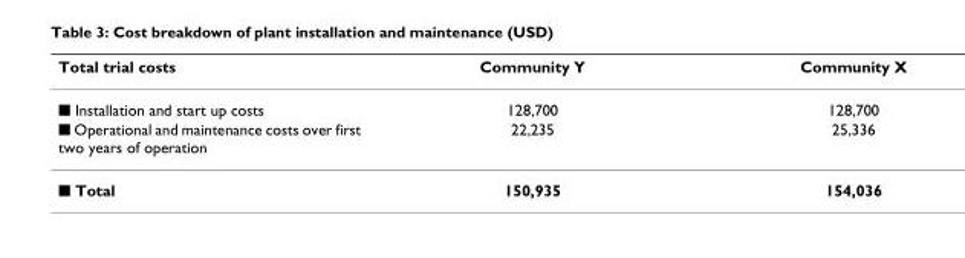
<table><thead><tr><td>Total trial costs</td><td>Community Y</td><td>Community X</td></tr></thead><tbody><tr><td>■ Installation and start up costs</td><td>128,700</td><td>128,700</td></tr><tr><td>■ Operational and maintenance costs over first two years of operation</td><td>22,235</td><td>25,336</td></tr><tr><td>■ Total</td><td>150,935</td><td>154,036</td></tr></tbody></table>